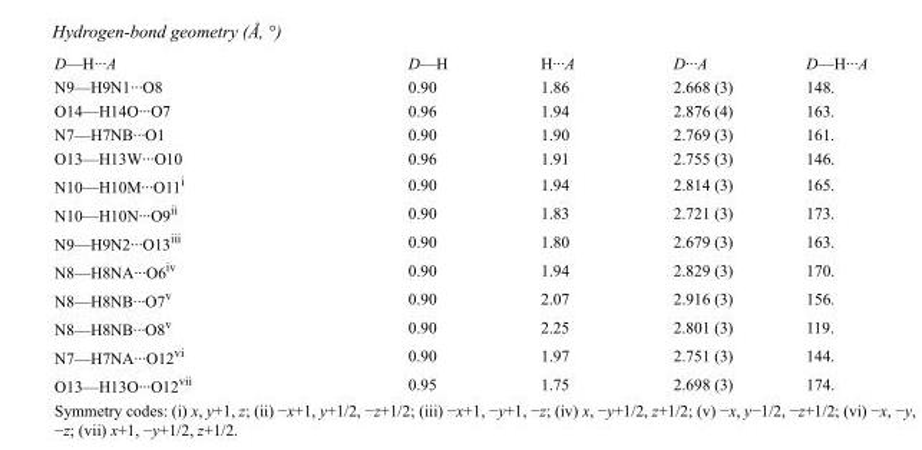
<table><tbody><tr><td>D—H···A</td><td>D—H</td><td>H···A</td><td>D···A</td><td>D—H···A</td></tr><tr><td>N9—H9N1···O8</td><td>0.90</td><td>1.86</td><td>2.668 (3)</td><td>148.</td></tr><tr><td>O14—H14O···O7</td><td>0.96</td><td>1.94</td><td>2.876 (4)</td><td>163.</td></tr><tr><td>N7—H7NB···O1</td><td>0.90</td><td>1.90</td><td>2.769 (3)</td><td>161.</td></tr><tr><td>O13—H13W···O10</td><td>0.96</td><td>1.91</td><td>2.755 (3)</td><td>146.</td></tr><tr><td>N10—H10M···O11<sup>i</sup></td><td>0.90</td><td>1.94</td><td>2.814 (3)</td><td>165.</td></tr><tr><td>N10—H10N···O9<sup>ii</sup></td><td>0.90</td><td>1.83</td><td>2.721 (3)</td><td>173.</td></tr><tr><td>N9—H9N2···O13<sup>iii</sup></td><td>0.90</td><td>1.80</td><td>2.679 (3)</td><td>163.</td></tr><tr><td>N8—H8NA···O6<sup>iv</sup></td><td>0.90</td><td>1.94</td><td>2.829 (3)</td><td>170.</td></tr><tr><td>N8—H8NB···O7<sup>v</sup></td><td>0.90</td><td>2.07</td><td>2.916 (3)</td><td>156.</td></tr><tr><td>N8—H8NB···O8<sup>v</sup></td><td>0.90</td><td>2.25</td><td>2.801 (3)</td><td>119.</td></tr><tr><td>N7—H7NA···O12<sup>vi</sup></td><td>0.90</td><td>1.97</td><td>2.751 (3)</td><td>144.</td></tr><tr><td>O13—H13O···O12<sup>vii</sup></td><td>0.95</td><td>1.75</td><td>2.698 (3)</td><td>174.</td></tr></tbody></table>